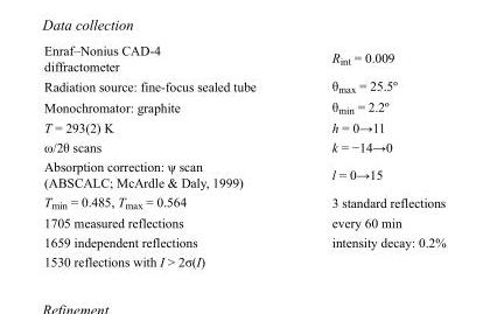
<table><tbody><tr><td>Enraf–Nonius CAD-4 diffractometer</td><td>R<sub>int</sub> = 0.009</td></tr><tr><td>Radiation source: fine-focus sealed tube</td><td>θ<sub>max</sub> = 25.5º</td></tr><tr><td>Monochromator: graphite</td><td>θ<sub>min</sub> = 2.2º</td></tr><tr><td>T = 293(2) K</td><td>h = 0→11</td></tr><tr><td>ω/2θ scans</td><td>k = −14→0</td></tr><tr><td>Absorption correction: ψ scan (ABSCALC; McArdle &amp; Daly, 1999)</td><td>l = 0→15</td></tr><tr><td>T<sub>min</sub> = 0.485, T<sub>max</sub> = 0.564</td><td>3 standard reflections</td></tr><tr><td>1705 measured reflections</td><td>every 60 min</td></tr><tr><td>1659 independent reflections</td><td>intensity decay: 0.2%</td></tr><tr><td>1530 reflections with I &gt; 2σ(I)</td><td></td></tr></tbody></table>